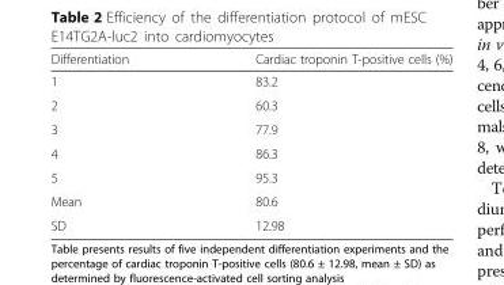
<table><thead><tr><td>Differentiation</td><td>Cardiac troponin T-positive cells (%)</td></tr></thead><tbody><tr><td>1</td><td>83.2</td></tr><tr><td>2</td><td>60.3</td></tr><tr><td>3</td><td>77.9</td></tr><tr><td>4</td><td>86.3</td></tr><tr><td>5</td><td>95.3</td></tr><tr><td>Mean</td><td>80.6</td></tr><tr><td>SD</td><td>12.98</td></tr></tbody></table>